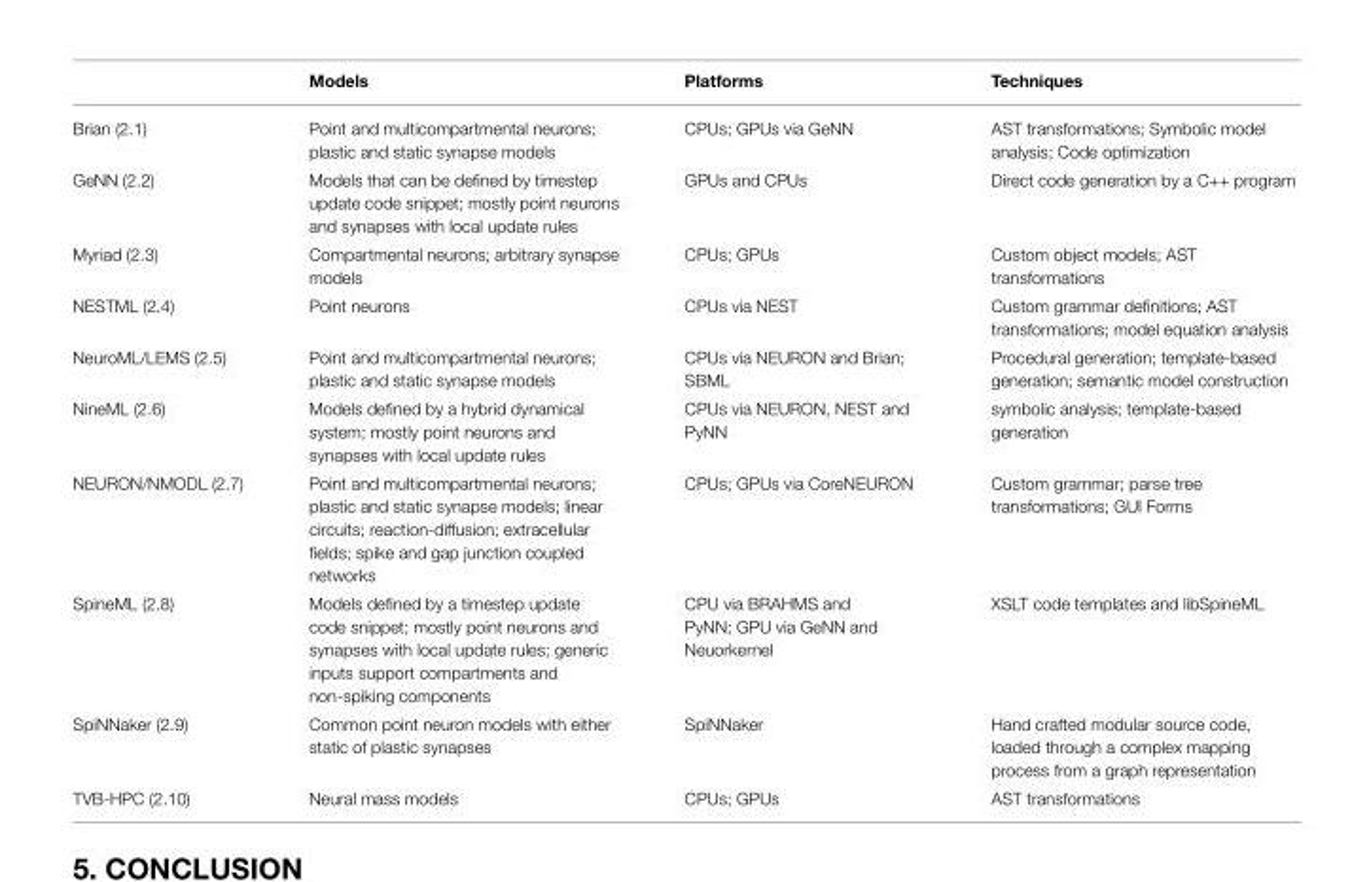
<table><thead><tr><td></td><td>Models</td><td>Platforms</td><td>Techniques</td></tr></thead><tbody><tr><td>Brian (2.1)</td><td>Point and multicompartmental neurons; plastic and static synapse models</td><td>CPUs; GPUs via GeNN</td><td>AST transformations; Symbolic model analysis; Code optimization</td></tr><tr><td>GeNN (2.2)</td><td>Models that can be defined by timestep update code snippet; mostly point neurons and synapses with local update rules</td><td>GPUs and CPUs</td><td>Direct code generation by a C++ program</td></tr><tr><td>Myriad (2.3)</td><td>Compartmental neurons; arbitrary synapse models</td><td>CPUs; GPUs</td><td>Custom object models; AST transformations</td></tr><tr><td>NESTML (2.4)</td><td>Point neurons</td><td>CPUs via NEST</td><td>Custom grammar definitions; AST transformations; model equation analysis</td></tr><tr><td>NeuroML/LEMS (2.5)</td><td>Point and multicompartmental neurons; plastic and static synapse models</td><td>CPUs via NEURON and Brian; SBML</td><td>Procedural generation; template-based generation; semantic model construction</td></tr><tr><td>NineML (2.6)</td><td>Models defined by a hybrid dynamical system; mostly point neurons and synapses with local update rules</td><td>CPUs via NEURON, NEST and PyNN</td><td>symbolic analysis; template-based generation</td></tr><tr><td>NEURON/NMODL (2.7)</td><td>Point and multicompartmental neurons; plastic and static synapse models; linear circuits; reaction-diffusion; extracellular fields; spike and gap junction coupled networks</td><td>CPUs; GPUs via CoreNEURON</td><td>Custom grammar; parse tree transformations; GUI Forms</td></tr><tr><td>SpineML (2.8)</td><td>Models defined by a timestep update code snippet; mostly point neurons and synapses with local update rules; generic inputs support compartments and non-spiking components</td><td>CPU via BRAHMS and PyNN; GPU via GeNN and Neuorkernel</td><td>XSLT code templates and libSpineML</td></tr><tr><td>SpiNNaker (2.9)</td><td>Common point neuron models with either static of plastic synapses</td><td>SpiNNaker</td><td>Hand crafted modular source code, loaded through a complex mapping process from a graph representation</td></tr><tr><td>TVB-HPC (2.10)</td><td>Neural mass models</td><td>CPUs; GPUs</td><td>AST transformations</td></tr></tbody></table>